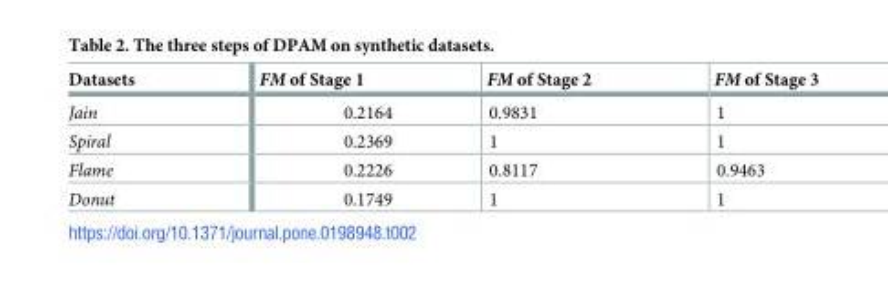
<table><thead><tr><td>Datasets</td><td>FM of Stage 1</td><td>FM of Stage 2</td><td>FM of Stage 3</td></tr></thead><tbody><tr><td>Jain</td><td>0.2164</td><td>0.9831</td><td>1</td></tr><tr><td>Spiral</td><td>0.2369</td><td>1</td><td>1</td></tr><tr><td>Flame</td><td>0.2226</td><td>0.8117</td><td>0.9463</td></tr><tr><td>Donut</td><td>0.1749</td><td>1</td><td>1</td></tr></tbody></table>